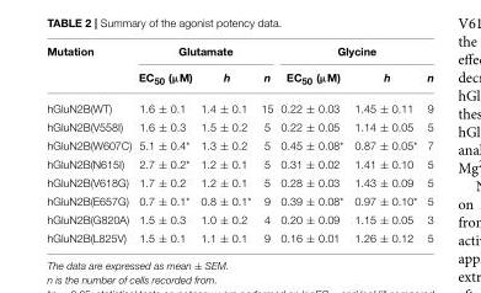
<table><thead><tr><td rowspan="2">Mutation</td><td colspan="3">Glutamate</td><td colspan="3">Glycine</td></tr><tr><td>EC<sub>50</sub> (µM)</td><td>h</td><td>n</td><td>EC<sub>50</sub> (µM)</td><td>h</td><td>n</td></tr></thead><tbody><tr><td>hGluN2B(WT)</td><td>1.6 ± 0.1</td><td>1.4 ± 0.1</td><td>15</td><td>0.22 ± 0.03</td><td>1.45 ± 0.11</td><td>9</td></tr><tr><td>hGluN2B(V558I)</td><td>1.6 ± 0.3</td><td>1.5 ± 0.2</td><td>5</td><td>0.22 ± 0.05</td><td>1.14 ± 0.05</td><td>5</td></tr><tr><td>hGluN2B(W607C)</td><td>5.1 ± 0.4*</td><td>1.3 ± 0.2</td><td>5</td><td>0.45 ± 0.08*</td><td>0.87 ± 0.05*</td><td>7</td></tr><tr><td>hGluN2B(N615I)</td><td>2.7 ± 0.2*</td><td>1.2 ± 0.1</td><td>5</td><td>0.31 ± 0.02</td><td>1.41 ± 0.10</td><td>5</td></tr><tr><td>hGluN2B(V618G)</td><td>1.7 ± 0.2</td><td>1.2 ± 0.1</td><td>5</td><td>0.28 ± 0.03</td><td>1.43 ± 0.09</td><td>5</td></tr><tr><td>hGluN2B(E657G)</td><td>0.7 ± 0.1*</td><td>0.8 ± 0.1*</td><td>9</td><td>0.39 ± 0.08*</td><td>0.97 ± 0.10*</td><td>5</td></tr><tr><td>hGluN2B(G820A)</td><td>1.5 ± 0.3</td><td>1.0 ± 0.2</td><td>4</td><td>0.20 ± 0.09</td><td>1.15 ± 0.05</td><td>3</td></tr><tr><td>hGluN2B(L825V)</td><td>1.5 ± 0.1</td><td>1.1 ± 0.1</td><td>9</td><td>0.16 ± 0.01</td><td>1.26 ± 0.12</td><td>5</td></tr></tbody></table>